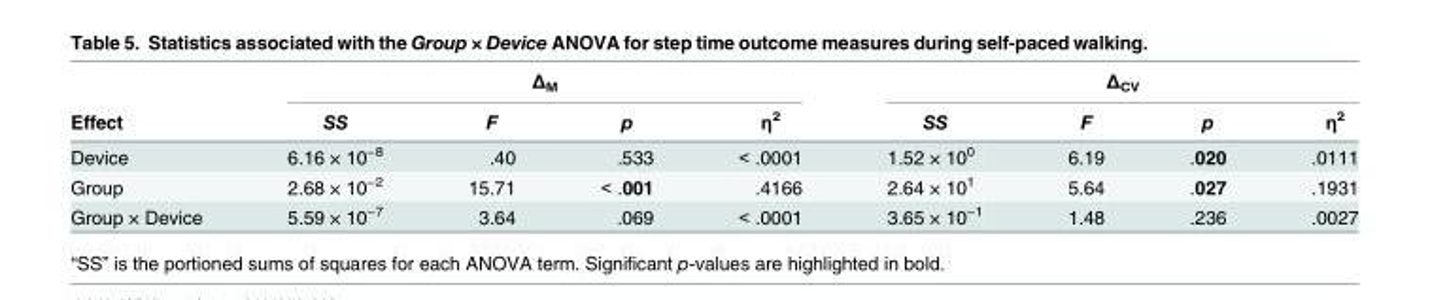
<table><thead><tr><td rowspan="2">Effect</td><td colspan="4">Δ<sub>M</sub></td><td colspan="4">Δ<sub>CV</sub></td></tr><tr><td>SS</td><td>F</td><td>p</td><td>η<sup>2</sup></td><td>SS</td><td>F</td><td>p</td><td>η<sup>2</sup></td></tr></thead><tbody><tr><td>Device</td><td>6.16 × 10<sup>−8</sup></td><td>.40</td><td>.533</td><td>&lt; .0001</td><td>1.52 × 10<sup>0</sup></td><td>6.19</td><td>.020</td><td>.0111</td></tr><tr><td>Group</td><td>2.68 × 10<sup>−2</sup></td><td>15.71</td><td>&lt; .001</td><td>.4166</td><td>2.64 × 10<sup>1</sup></td><td>5.64</td><td>.027</td><td>.1931</td></tr><tr><td>Group × Device</td><td>5.59 × 10<sup>−7</sup></td><td>3.64</td><td>.069</td><td>&lt; .0001</td><td>3.65 × 10<sup>−1</sup></td><td>1.48</td><td>.236</td><td>.0027</td></tr></tbody></table>